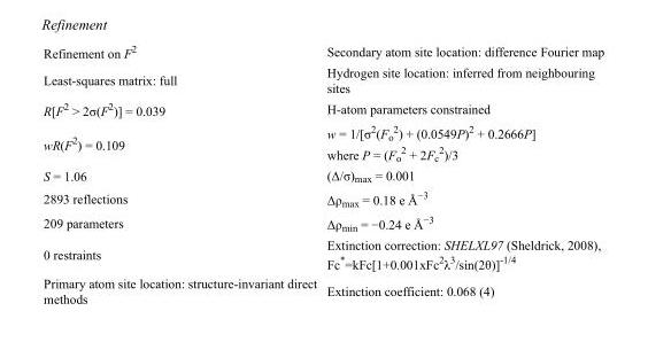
<table><tbody><tr><td>Refinement on F<sup>2</sup></td><td>Secondary atom site location: difference Fourier map</td></tr><tr><td>Least-squares matrix: full</td><td>Hydrogen site location: inferred from neighbouring sites</td></tr><tr><td>R[F<sup>2</sup> &gt; 2σ(F<sup>2</sup>)] = 0.039</td><td>H-atom parameters constrained</td></tr><tr><td>wR(F<sup>2</sup>) = 0.109</td><td>w = 1/[σ<sup>2</sup>(F<sub>o</sub> <sup>2</sup>) + (0.0549P)<sup>2</sup> + 0.2666P] where P = (F<sub>o</sub> <sup>2</sup> + 2F<sub>c</sub> <sup>2</sup>)/3</td></tr><tr><td>S = 1.06</td><td>(Δ/σ)<sub>max</sub> = 0.001</td></tr><tr><td>2893 reflections</td><td>Δρ<sub>max</sub> = 0.18 e Å<sup>−3</sup></td></tr><tr><td>209 parameters</td><td>Δρ<sub>min</sub> = −0.24 e Å<sup>−3</sup></td></tr><tr><td>0 restraints</td><td>Extinction correction: SHELXL97 (Sheldrick, 2008), Fc*=kFc[1+0.001xFc<sup>2</sup>λ<sup>3</sup>/sin(2θ)]<sup>-1/4</sup></td></tr><tr><td>Primary atom site location: structure-invariant direct methods</td><td>Extinction coefficient: 0.068 (4)</td></tr></tbody></table>